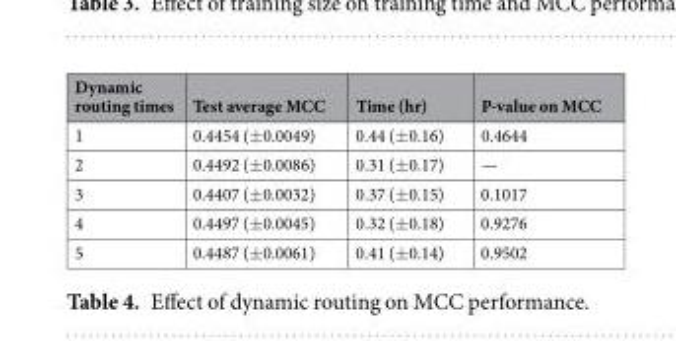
<table><thead><tr><td>Dynamic routing times</td><td>Test average MCC</td><td>Time (hr)</td><td>P-value on MCC</td></tr></thead><tbody><tr><td>1</td><td>0.4454 (±0.0049)</td><td>0.44 (±0.16)</td><td>0.4644</td></tr><tr><td>2</td><td>0.4492 (±0.0086)</td><td>0.31 (±0.17)</td><td>—</td></tr><tr><td>3</td><td>0.4407 (±0.0032)</td><td>0.37 (±0.15)</td><td>0.1017</td></tr><tr><td>4</td><td>0.4497 (±0.0045)</td><td>0.32 (±0.18)</td><td>0.9276</td></tr><tr><td>5</td><td>0.4487 (±0.0061)</td><td>0.41 (±0.14)</td><td>0.9502</td></tr></tbody></table>